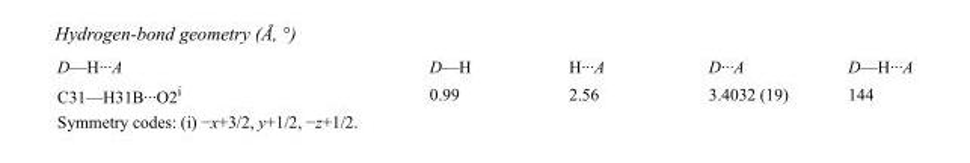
<table><tbody><tr><td>D—H···A</td><td>D—H</td><td>H···A</td><td>D···A</td><td>D—H···A</td></tr><tr><td>C31—H31B···O2<sup>i</sup></td><td>0.99</td><td>2.56</td><td>3.4032 (19)</td><td>144</td></tr></tbody></table>